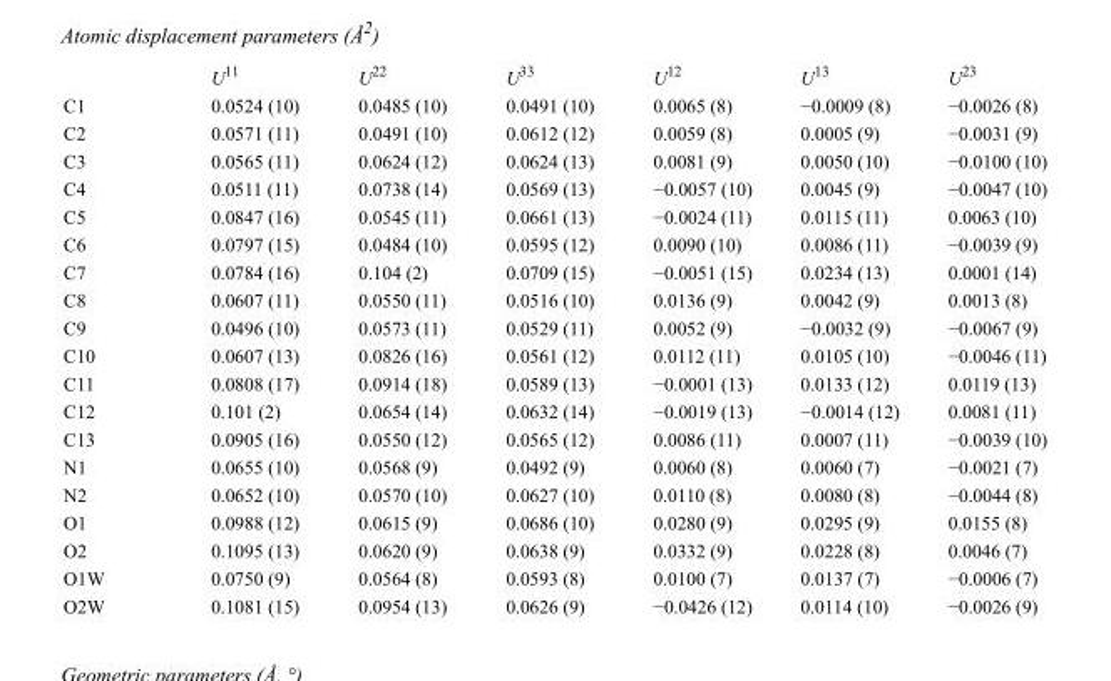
<table><thead><tr><td></td><td>U<sup>11</sup></td><td>U<sup>22</sup></td><td>U<sup>33</sup></td><td>U<sup>12</sup></td><td>U<sup>13</sup></td><td>U<sup>23</sup></td></tr></thead><tbody><tr><td>C1</td><td>0.0524 (10)</td><td>0.0485 (10)</td><td>0.0491 (10)</td><td>0.0065 (8)</td><td>−0.0009 (8)</td><td>−0.0026 (8)</td></tr><tr><td>C2</td><td>0.0571 (11)</td><td>0.0491 (10)</td><td>0.0612 (12)</td><td>0.0059 (8)</td><td>0.0005 (9)</td><td>−0.0031 (9)</td></tr><tr><td>C3</td><td>0.0565 (11)</td><td>0.0624 (12)</td><td>0.0624 (13)</td><td>0.0081 (9)</td><td>0.0050 (10)</td><td>−0.0100 (10)</td></tr><tr><td>C4</td><td>0.0511 (11)</td><td>0.0738 (14)</td><td>0.0569 (13)</td><td>−0.0057 (10)</td><td>0.0045 (9)</td><td>−0.0047 (10)</td></tr><tr><td>C5</td><td>0.0847 (16)</td><td>0.0545 (11)</td><td>0.0661 (13)</td><td>−0.0024 (11)</td><td>0.0115 (11)</td><td>0.0063 (10)</td></tr><tr><td>C6</td><td>0.0797 (15)</td><td>0.0484 (10)</td><td>0.0595 (12)</td><td>0.0090 (10)</td><td>0.0086 (11)</td><td>−0.0039 (9)</td></tr><tr><td>C7</td><td>0.0784 (16)</td><td>0.104 (2)</td><td>0.0709 (15)</td><td>−0.0051 (15)</td><td>0.0234 (13)</td><td>0.0001 (14)</td></tr><tr><td>C8</td><td>0.0607 (11)</td><td>0.0550 (11)</td><td>0.0516 (10)</td><td>0.0136 (9)</td><td>0.0042 (9)</td><td>0.0013 (8)</td></tr><tr><td>C9</td><td>0.0496 (10)</td><td>0.0573 (11)</td><td>0.0529 (11)</td><td>0.0052 (9)</td><td>−0.0032 (9)</td><td>−0.0067 (9)</td></tr><tr><td>C10</td><td>0.0607 (13)</td><td>0.0826 (16)</td><td>0.0561 (12)</td><td>0.0112 (11)</td><td>0.0105 (10)</td><td>−0.0046 (11)</td></tr><tr><td>C11</td><td>0.0808 (17)</td><td>0.0914 (18)</td><td>0.0589 (13)</td><td>−0.0001 (13)</td><td>0.0133 (12)</td><td>0.0119 (13)</td></tr><tr><td>C12</td><td>0.101 (2)</td><td>0.0654 (14)</td><td>0.0632 (14)</td><td>−0.0019 (13)</td><td>−0.0014 (12)</td><td>0.0081 (11)</td></tr><tr><td>C13</td><td>0.0905 (16)</td><td>0.0550 (12)</td><td>0.0565 (12)</td><td>0.0086 (11)</td><td>0.0007 (11)</td><td>−0.0039 (10)</td></tr><tr><td>N1</td><td>0.0655 (10)</td><td>0.0568 (9)</td><td>0.0492 (9)</td><td>0.0060 (8)</td><td>0.0060 (7)</td><td>−0.0021 (7)</td></tr><tr><td>N2</td><td>0.0652 (10)</td><td>0.0570 (10)</td><td>0.0627 (10)</td><td>0.0110 (8)</td><td>0.0080 (8)</td><td>−0.0044 (8)</td></tr><tr><td>O1</td><td>0.0988 (12)</td><td>0.0615 (9)</td><td>0.0686 (10)</td><td>0.0280 (9)</td><td>0.0295 (9)</td><td>0.0155 (8)</td></tr><tr><td>O2</td><td>0.1095 (13)</td><td>0.0620 (9)</td><td>0.0638 (9)</td><td>0.0332 (9)</td><td>0.0228 (8)</td><td>0.0046 (7)</td></tr><tr><td>O1W</td><td>0.0750 (9)</td><td>0.0564 (8)</td><td>0.0593 (8)</td><td>0.0100 (7)</td><td>0.0137 (7)</td><td>−0.0006 (7)</td></tr><tr><td>O2W</td><td>0.1081 (15)</td><td>0.0954 (13)</td><td>0.0626 (9)</td><td>−0.0426 (12)</td><td>0.0114 (10)</td><td>−0.0026 (9)</td></tr></tbody></table>